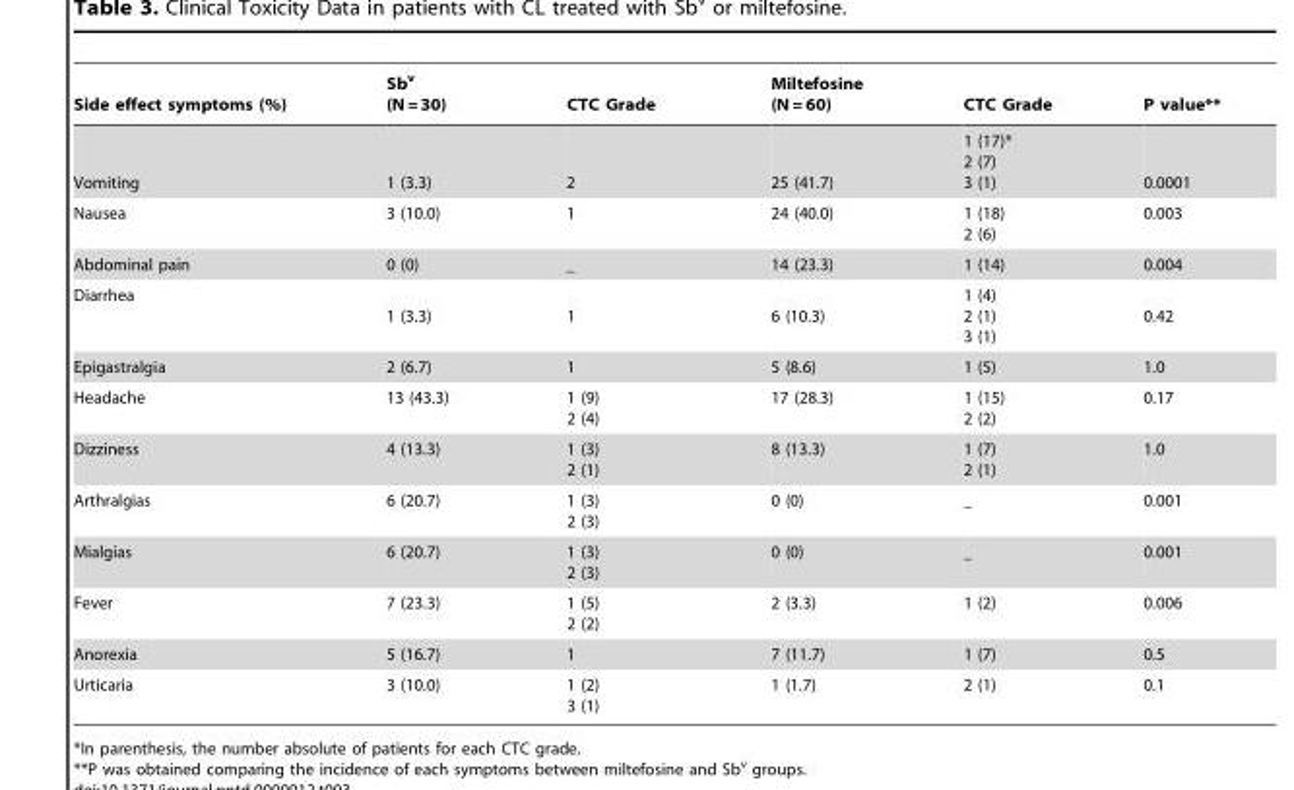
<table><thead><tr><td>Side effect symptoms (%)</td><td>Sb<sup>v</sup> (N = 30)</td><td>CTC Grade</td><td>Miltefosine (N = 60)</td><td>CTC Grade</td><td>P value**</td></tr></thead><tbody><tr><td>Vomiting</td><td>1 (3.3)</td><td>2</td><td>25 (41.7)</td><td>1 (17)* 2 (7) 3 (1)</td><td>0.0001</td></tr><tr><td>Nausea</td><td>3 (10.0)</td><td>1</td><td>24 (40.0)</td><td>1 (18) 2 (6)</td><td>0.003</td></tr><tr><td>Abdominal pain</td><td>0 (0)</td><td>_</td><td>14 (23.3)</td><td>1 (14)</td><td>0.004</td></tr><tr><td>Diarrhea</td><td>1 (3.3)</td><td>1</td><td>6 (10.3)</td><td>1 (4) 2 (1) 3 (1)</td><td>0.42</td></tr><tr><td>Epigastralgia</td><td>2 (6.7)</td><td>1</td><td>5 (8.6)</td><td>1 (5)</td><td>1.0</td></tr><tr><td>Headache</td><td>13 (43.3)</td><td>1 (9) 2 (4)</td><td>17 (28.3)</td><td>1 (15) 2 (2)</td><td>0.17</td></tr><tr><td>Dizziness</td><td>4 (13.3)</td><td>1 (3) 2 (1)</td><td>8 (13.3)</td><td>1 (7) 2 (1)</td><td>1.0</td></tr><tr><td>Arthralgias</td><td>6 (20.7)</td><td>1 (3) 2 (3)</td><td>0 (0)</td><td>_</td><td>0.001</td></tr><tr><td>Mialgias</td><td>6 (20.7)</td><td>1 (3) 2 (3)</td><td>0 (0)</td><td>_</td><td>0.001</td></tr><tr><td>Fever</td><td>7 (23.3)</td><td>1 (5) 2 (2)</td><td>2 (3.3)</td><td>1 (2)</td><td>0.006</td></tr><tr><td>Anorexia</td><td>5 (16.7)</td><td>1</td><td>7 (11.7)</td><td>1 (7)</td><td>0.5</td></tr><tr><td>Urticaria</td><td>3 (10.0)</td><td>1 (2) 3 (1)</td><td>1 (1.7)</td><td>2 (1)</td><td>0.1</td></tr></tbody></table>